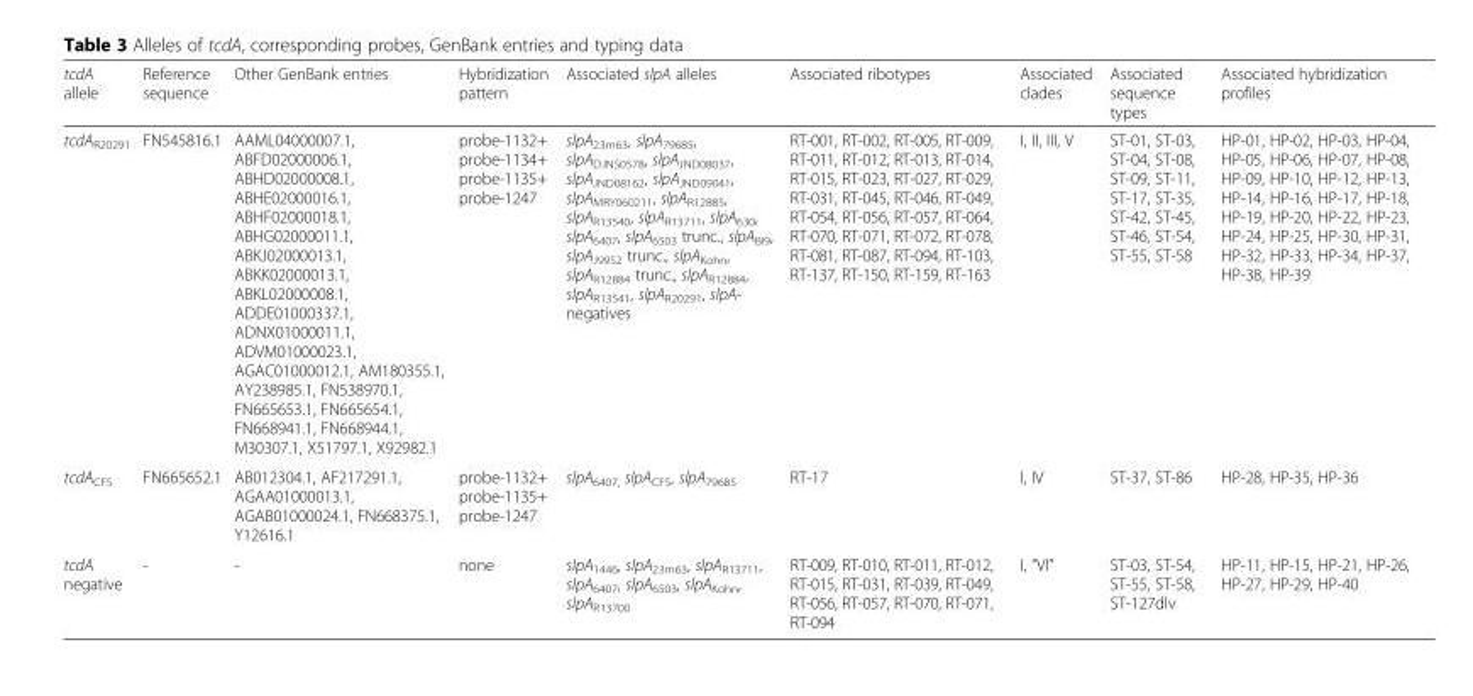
<table><thead><tr><td>tcdA allele</td><td>Reference sequence</td><td>Other GenBank entries</td><td>Hybridization pattern</td><td>Associated slpA alleles</td><td>Associated ribotypes</td><td>Associated clades</td><td>Associated sequence types</td><td>Associated hybridization profiles</td></tr></thead><tbody><tr><td>tcdA<sub>R20291</sub></td><td>FN545816.1</td><td>AAML04000007.1, ABFD02000006.1, ABHD02000008.1, ABHE02000016.1, ABHF02000018.1, ABHG02000011.1, ABKJ02000013.1, ABKK02000013.1, ABKL02000008.1, ADDE01000337.1, ADNX01000011.1, ADVM01000023.1, AGAC01000012.1, AM180355.1, AY238985.1, FN538970.1, FN665653.1, FN665654.1, FN668941.1, FN668944.1, M30307.1, X51797.1, X92982.1</td><td>probe-1132+ probe-1134+ probe-1135+ probe-1247</td><td>slpA23m63, slpA79685, slpADJNS0578, slpAJND08037, slpAJND08162, slpAJND09041, slpAMRY060211, slpAR12885, slpAR13540, slpAR13711, slpA630, slpA6407, slpA6503 trunc., slpABI9, slpAJ9952 trunc., slpAKohn, slpAR12884 trunc., slpAR12884, slpAR13541, slpAR20291, slpA- negatives</td><td>RT-001, RT-002, RT-005, RT-009, RT-011, RT-012, RT-013, RT-014, RT-015, RT-023, RT-027, RT-029, RT-031, RT-045, RT-046, RT-049, RT-054, RT-056, RT-057, RT-064, RT-070, RT-071, RT-072, RT-078, RT-081, RT-087, RT-094, RT-103, RT-137, RT-150, RT-159, RT-163</td><td>I, II, III, V</td><td>ST-01, ST-03, ST-04, ST-08, ST-09, ST-11, ST-17, ST-35, ST-42, ST-45, ST-46, ST-54, ST-55, ST-58</td><td>HP-01, HP-02, HP-03, HP-04, HP-05, HP-06, HP-07, HP-08, HP-09, HP-10, HP-12, HP-13, HP-14, HP-16, HP-17, HP-18, HP-19, HP-20, HP-22, HP-23, HP-24, HP-25, HP-30, HP-31, HP-32, HP-33, HP-34, HP-37, HP-38, HP-39</td></tr><tr><td>tcdA<sub>CF5</sub></td><td>FN665652.1</td><td>AB012304.1, AF217291.1, AGAA01000013.1, AGAB01000024.1, FN668375.1, Y12616.1</td><td>probe-1132+ probe-1135+ probe-1247</td><td>slpA<sub>6407,</sub> slpA<sub>CF5</sub>, slpA<sub>79685</sub></td><td>RT-17</td><td>I, IV</td><td>ST-37, ST-86</td><td>HP-28, HP-35, HP-36</td></tr><tr><td>tcdA negative</td><td>-</td><td>-</td><td>none</td><td>slpA<sub>1446</sub>, slpA<sub>23m63</sub>, slpA<sub>R13711</sub>, slpA<sub>6407</sub>, slpA<sub>6503</sub>, slpA<sub>Kohn</sub>, slpA<sub>R13700</sub></td><td>RT-009, RT-010, RT-011, RT-012, RT-015, RT-031, RT-039, RT-049, RT-056, RT-057, RT-070, RT-071, RT-094</td><td>I, ”VI”</td><td>ST-03, ST-54, ST-55, ST-58, ST-127dlv</td><td>HP-11, HP-15, HP-21, HP-26, HP-27, HP-29, HP-40</td></tr></tbody></table>